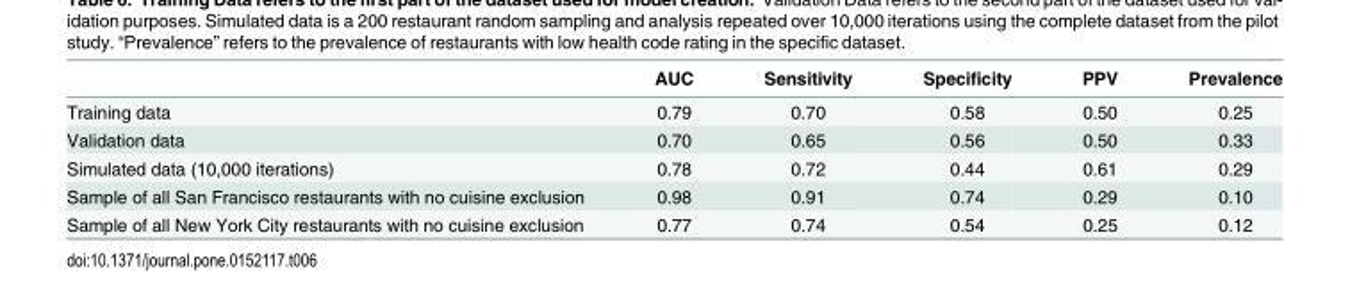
<table><thead><tr><td></td><td>AUC</td><td>Sensitivity</td><td>Specificity</td><td>PPV</td><td>Prevalence</td></tr></thead><tbody><tr><td>Training data</td><td>0.79</td><td>0.70</td><td>0.58</td><td>0.50</td><td>0.25</td></tr><tr><td>Validation data</td><td>0.70</td><td>0.65</td><td>0.56</td><td>0.50</td><td>0.33</td></tr><tr><td>Simulated data (10,000 iterations)</td><td>0.78</td><td>0.72</td><td>0.44</td><td>0.61</td><td>0.29</td></tr><tr><td>Sample of all San Francisco restaurants with no cuisine exclusion</td><td>0.98</td><td>0.91</td><td>0.74</td><td>0.29</td><td>0.10</td></tr><tr><td>Sample of all New York City restaurants with no cuisine exclusion</td><td>0.77</td><td>0.74</td><td>0.54</td><td>0.25</td><td>0.12</td></tr></tbody></table>